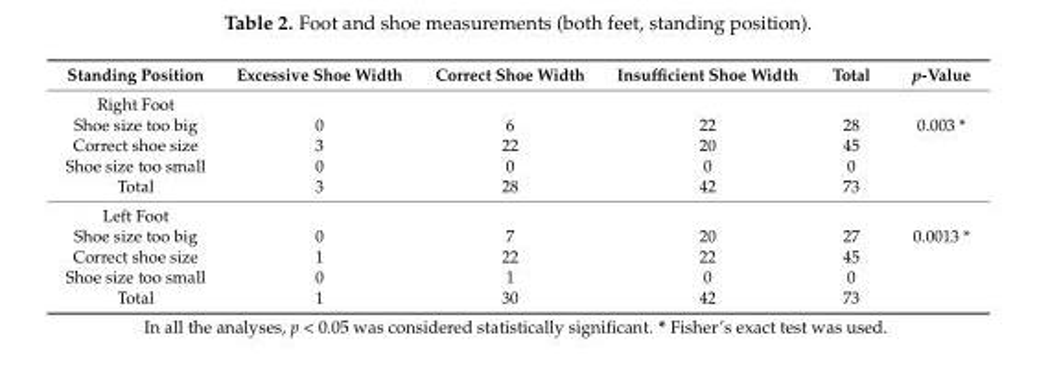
<table><thead><tr><td>Standing Position</td><td>Excessive Shoe Width</td><td>Correct Shoe Width</td><td>Insufficient Shoe Width</td><td>Total</td><td>p-Value</td></tr></thead><tbody><tr><td colspan="6">Right Foot</td></tr><tr><td>Shoe size too big</td><td>0</td><td>6</td><td>22</td><td>28</td><td>0.003 *</td></tr><tr><td>Correct shoe size</td><td>3</td><td>22</td><td>20</td><td>45</td><td></td></tr><tr><td>Shoe size too small</td><td>0</td><td>0</td><td>0</td><td>0</td><td></td></tr><tr><td>Total</td><td>3</td><td>28</td><td>42</td><td>73</td><td></td></tr><tr><td colspan="6">Left Foot</td></tr><tr><td>Shoe size too big</td><td>0</td><td>7</td><td>20</td><td>27</td><td>0.0013 *</td></tr><tr><td>Correct shoe size</td><td>1</td><td>22</td><td>22</td><td>45</td><td></td></tr><tr><td>Shoe size too small</td><td>0</td><td>1</td><td>0</td><td>0</td><td></td></tr><tr><td>Total</td><td>1</td><td>30</td><td>42</td><td>73</td><td></td></tr></tbody></table>